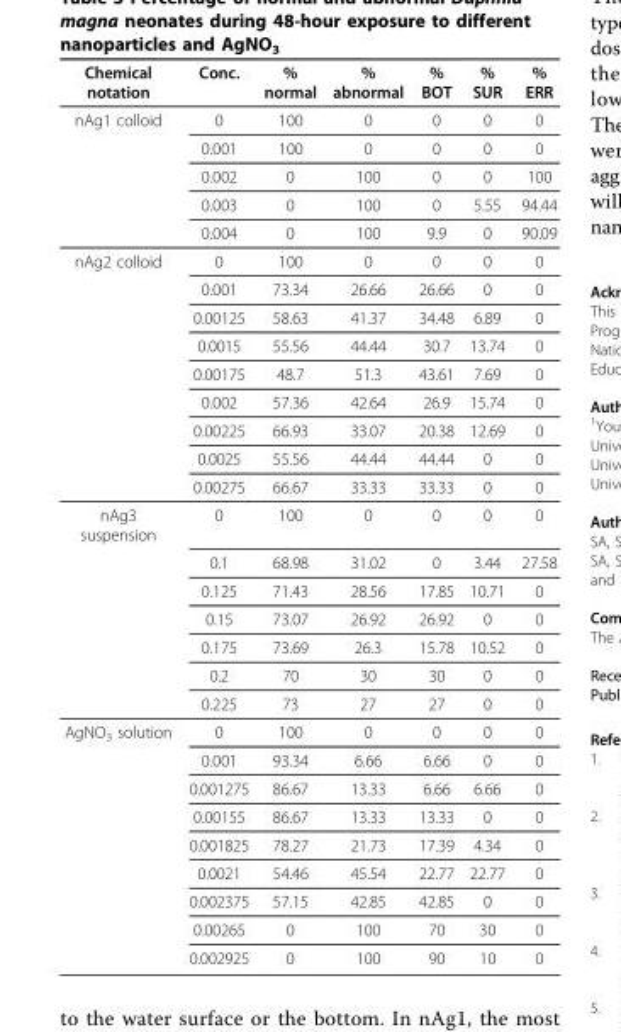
<table><thead><tr><td>Chemical notation</td><td>Conc.</td><td>% normal</td><td>% abnormal</td><td>% BOT</td><td>% SUR</td><td>% ERR</td></tr></thead><tbody><tr><td rowspan="5">nAg1 colloid</td><td>0</td><td>100</td><td>0</td><td>0</td><td>0</td><td>0</td></tr><tr><td>0.001</td><td>100</td><td>0</td><td>0</td><td>0</td><td>0</td></tr><tr><td>0.002</td><td>0</td><td>100</td><td>0</td><td>0</td><td>100</td></tr><tr><td>0.003</td><td>0</td><td>100</td><td>0</td><td>5.55</td><td>94.44</td></tr><tr><td>0.004</td><td>0</td><td>100</td><td>9.9</td><td>0</td><td>90.09</td></tr><tr><td rowspan="9">nAg2 colloid</td><td>0</td><td>100</td><td>0</td><td>0</td><td>0</td><td>0</td></tr><tr><td>0.001</td><td>73.34</td><td>26.66</td><td>26.66</td><td>0</td><td>0</td></tr><tr><td>0.00125</td><td>58.63</td><td>41.37</td><td>34.48</td><td>6.89</td><td>0</td></tr><tr><td>0.0015</td><td>55.56</td><td>44.44</td><td>30.7</td><td>13.74</td><td>0</td></tr><tr><td>0.00175</td><td>48.7</td><td>51.3</td><td>43.61</td><td>7.69</td><td>0</td></tr><tr><td>0.002</td><td>57.36</td><td>42.64</td><td>26.9</td><td>15.74</td><td>0</td></tr><tr><td>0.00225</td><td>66.93</td><td>33.07</td><td>20.38</td><td>12.69</td><td>0</td></tr><tr><td>0.0025</td><td>55.56</td><td>44.44</td><td>44.44</td><td>0</td><td>0</td></tr><tr><td>0.00275</td><td>66.67</td><td>33.33</td><td>33.33</td><td>0</td><td>0</td></tr><tr><td rowspan="7">nAg3 suspension</td><td>0</td><td>100</td><td>0</td><td>0</td><td>0</td><td>0</td></tr><tr><td>0.1</td><td>68.98</td><td>31.02</td><td>0</td><td>3.44</td><td>27.58</td></tr><tr><td>0.125</td><td>71.43</td><td>28.56</td><td>17.85</td><td>10.71</td><td>0</td></tr><tr><td>0.15</td><td>73.07</td><td>26.92</td><td>26.92</td><td>0</td><td>0</td></tr><tr><td>0.175</td><td>73.69</td><td>26.3</td><td>15.78</td><td>10.52</td><td>0</td></tr><tr><td>0.2</td><td>70</td><td>30</td><td>30</td><td>0</td><td>0</td></tr><tr><td>0.225</td><td>73</td><td>27</td><td>27</td><td>0</td><td>0</td></tr><tr><td rowspan="9">AgNO<sub>3</sub> solution</td><td>0</td><td>100</td><td>0</td><td>0</td><td>0</td><td>0</td></tr><tr><td>0.001</td><td>93.34</td><td>6.66</td><td>6.66</td><td>0</td><td>0</td></tr><tr><td>0.001275</td><td>86.67</td><td>13.33</td><td>6.66</td><td>6.66</td><td>0</td></tr><tr><td>0.00155</td><td>86.67</td><td>13.33</td><td>13.33</td><td>0</td><td>0</td></tr><tr><td>0.001825</td><td>78.27</td><td>21.73</td><td>17.39</td><td>4.34</td><td>0</td></tr><tr><td>0.0021</td><td>54.46</td><td>45.54</td><td>22.77</td><td>22.77</td><td>0</td></tr><tr><td>0.002375</td><td>57.15</td><td>42.85</td><td>42.85</td><td>0</td><td>0</td></tr><tr><td>0.00265</td><td>0</td><td>100</td><td>70</td><td>30</td><td>0</td></tr><tr><td>0.002925</td><td>0</td><td>100</td><td>90</td><td>10</td><td>0</td></tr></tbody></table>